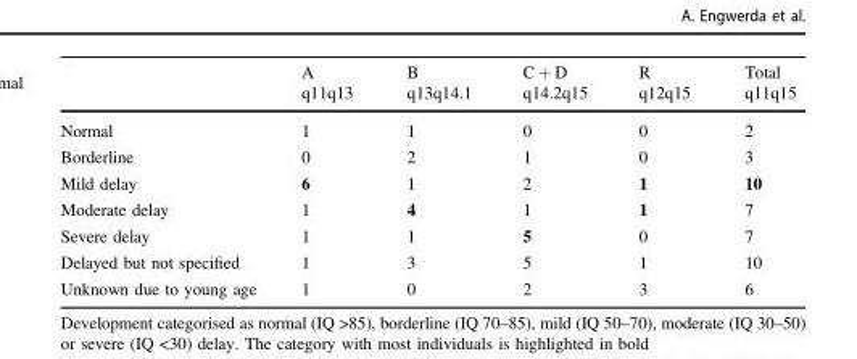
<table><thead><tr><td></td><td>A q11q13</td><td>B q13q14.1</td><td>C + D q14.2q15</td><td>R q12q15</td><td>Total q11q15</td></tr></thead><tbody><tr><td>Normal</td><td>1</td><td>1</td><td>0</td><td>0</td><td>2</td></tr><tr><td>Borderline</td><td>0</td><td>2</td><td>1</td><td>0</td><td>3</td></tr><tr><td>Mild delay</td><td>6</td><td>1</td><td>2</td><td>1</td><td>10</td></tr><tr><td>Moderate delay</td><td>1</td><td>4</td><td>1</td><td>1</td><td>7</td></tr><tr><td>Severe delay</td><td>1</td><td>1</td><td>5</td><td>0</td><td>7</td></tr><tr><td>Delayed but not specified</td><td>1</td><td>3</td><td>5</td><td>1</td><td>10</td></tr><tr><td>Unknown due to young age</td><td>1</td><td>0</td><td>2</td><td>3</td><td>6</td></tr></tbody></table>